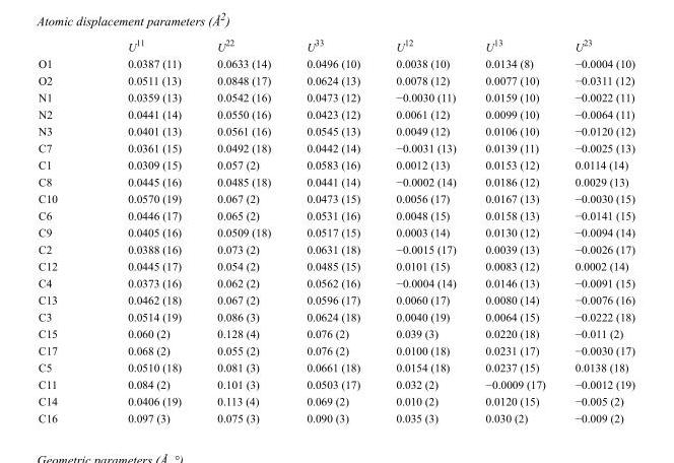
<table><thead><tr><td></td><td>U<sup>11</sup></td><td>U<sup>22</sup></td><td>U<sup>33</sup></td><td>U<sup>12</sup></td><td>U<sup>13</sup></td><td>U<sup>23</sup></td></tr></thead><tbody><tr><td>O1</td><td>0.0387 (11)</td><td>0.0633 (14)</td><td>0.0496 (10)</td><td>0.0038 (10)</td><td>0.0134 (8)</td><td>−0.0004 (10)</td></tr><tr><td>O2</td><td>0.0511 (13)</td><td>0.0848 (17)</td><td>0.0624 (13)</td><td>0.0078 (12)</td><td>0.0077 (10)</td><td>−0.0311 (12)</td></tr><tr><td>N1</td><td>0.0359 (13)</td><td>0.0542 (16)</td><td>0.0473 (12)</td><td>−0.0030 (11)</td><td>0.0159 (10)</td><td>−0.0022 (11)</td></tr><tr><td>N2</td><td>0.0441 (14)</td><td>0.0550 (16)</td><td>0.0423 (12)</td><td>0.0061 (12)</td><td>0.0099 (10)</td><td>−0.0064 (11)</td></tr><tr><td>N3</td><td>0.0401 (13)</td><td>0.0561 (16)</td><td>0.0545 (13)</td><td>0.0049 (12)</td><td>0.0106 (10)</td><td>−0.0120 (12)</td></tr><tr><td>C7</td><td>0.0361 (15)</td><td>0.0492 (18)</td><td>0.0442 (14)</td><td>−0.0031 (13)</td><td>0.0139 (11)</td><td>−0.0025 (13)</td></tr><tr><td>C1</td><td>0.0309 (15)</td><td>0.057 (2)</td><td>0.0583 (16)</td><td>0.0012 (13)</td><td>0.0153 (12)</td><td>0.0114 (14)</td></tr><tr><td>C8</td><td>0.0445 (16)</td><td>0.0485 (18)</td><td>0.0441 (14)</td><td>−0.0002 (14)</td><td>0.0186 (12)</td><td>0.0029 (13)</td></tr><tr><td>C10</td><td>0.0570 (19)</td><td>0.067 (2)</td><td>0.0473 (15)</td><td>0.0056 (17)</td><td>0.0167 (13)</td><td>−0.0030 (15)</td></tr><tr><td>C6</td><td>0.0446 (17)</td><td>0.065 (2)</td><td>0.0531 (16)</td><td>0.0048 (15)</td><td>0.0158 (13)</td><td>−0.0141 (15)</td></tr><tr><td>C9</td><td>0.0405 (16)</td><td>0.0509 (18)</td><td>0.0517 (15)</td><td>0.0003 (14)</td><td>0.0130 (12)</td><td>−0.0094 (14)</td></tr><tr><td>C2</td><td>0.0388 (16)</td><td>0.073 (2)</td><td>0.0631 (18)</td><td>−0.0015 (17)</td><td>0.0039 (13)</td><td>−0.0026 (17)</td></tr><tr><td>C12</td><td>0.0445 (17)</td><td>0.054 (2)</td><td>0.0485 (15)</td><td>0.0101 (15)</td><td>0.0083 (12)</td><td>0.0002 (14)</td></tr><tr><td>C4</td><td>0.0373 (16)</td><td>0.062 (2)</td><td>0.0562 (16)</td><td>−0.0004 (14)</td><td>0.0146 (13)</td><td>−0.0091 (15)</td></tr><tr><td>C13</td><td>0.0462 (18)</td><td>0.067 (2)</td><td>0.0596 (17)</td><td>0.0060 (17)</td><td>0.0080 (14)</td><td>−0.0076 (16)</td></tr><tr><td>C3</td><td>0.0514 (19)</td><td>0.086 (3)</td><td>0.0624 (18)</td><td>0.0040 (19)</td><td>0.0064 (15)</td><td>−0.0222 (18)</td></tr><tr><td>C15</td><td>0.060 (2)</td><td>0.128 (4)</td><td>0.076 (2)</td><td>0.039 (3)</td><td>0.0220 (18)</td><td>−0.011 (2)</td></tr><tr><td>C17</td><td>0.068 (2)</td><td>0.055 (2)</td><td>0.076 (2)</td><td>0.0100 (18)</td><td>0.0231 (17)</td><td>−0.0030 (17)</td></tr><tr><td>C5</td><td>0.0510 (18)</td><td>0.081 (3)</td><td>0.0661 (18)</td><td>0.0154 (18)</td><td>0.0237 (15)</td><td>0.0138 (18)</td></tr><tr><td>C11</td><td>0.084 (2)</td><td>0.101 (3)</td><td>0.0503 (17)</td><td>0.032 (2)</td><td>−0.0009 (17)</td><td>−0.0012 (19)</td></tr><tr><td>C14</td><td>0.0406 (19)</td><td>0.113 (4)</td><td>0.069 (2)</td><td>0.010 (2)</td><td>0.0120 (15)</td><td>−0.005 (2)</td></tr><tr><td>C16</td><td>0.097 (3)</td><td>0.075 (3)</td><td>0.090 (3)</td><td>0.035 (3)</td><td>0.030 (2)</td><td>−0.009 (2)</td></tr></tbody></table>